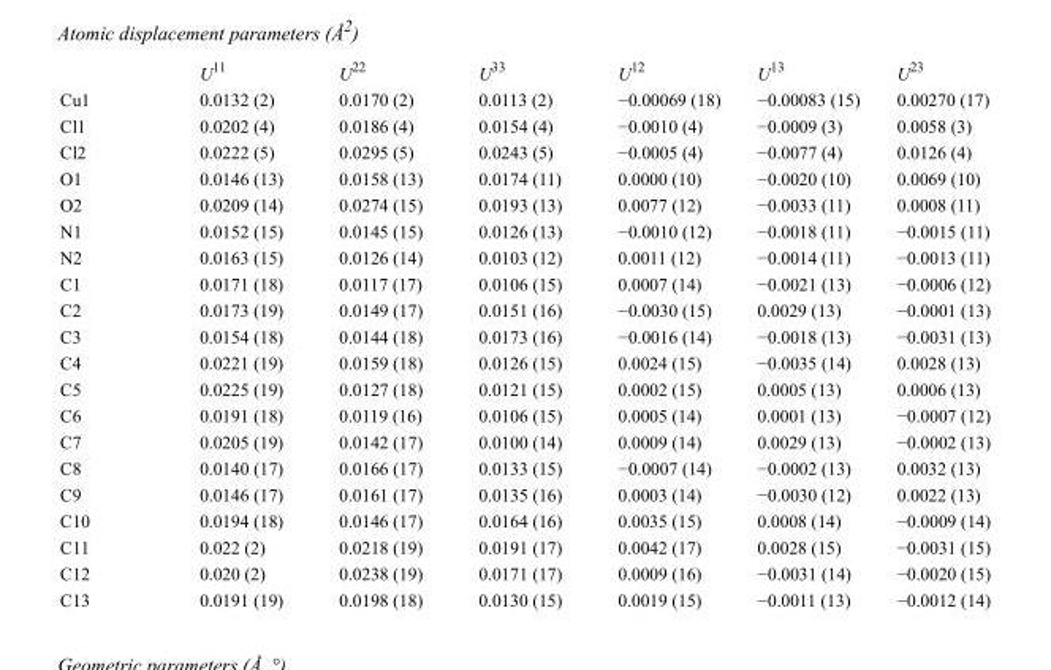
<table><thead><tr><td></td><td>U<sup>11</sup></td><td>U<sup>22</sup></td><td>U<sup>33</sup></td><td>U<sup>12</sup></td><td>U<sup>13</sup></td><td>U<sup>23</sup></td></tr></thead><tbody><tr><td>Cu1</td><td>0.0132 (2)</td><td>0.0170 (2)</td><td>0.0113 (2)</td><td>−0.00069 (18)</td><td>−0.00083 (15)</td><td>0.00270 (17)</td></tr><tr><td>Cl1</td><td>0.0202 (4)</td><td>0.0186 (4)</td><td>0.0154 (4)</td><td>−0.0010 (4)</td><td>−0.0009 (3)</td><td>0.0058 (3)</td></tr><tr><td>Cl2</td><td>0.0222 (5)</td><td>0.0295 (5)</td><td>0.0243 (5)</td><td>−0.0005 (4)</td><td>−0.0077 (4)</td><td>0.0126 (4)</td></tr><tr><td>O1</td><td>0.0146 (13)</td><td>0.0158 (13)</td><td>0.0174 (11)</td><td>0.0000 (10)</td><td>−0.0020 (10)</td><td>0.0069 (10)</td></tr><tr><td>O2</td><td>0.0209 (14)</td><td>0.0274 (15)</td><td>0.0193 (13)</td><td>0.0077 (12)</td><td>−0.0033 (11)</td><td>0.0008 (11)</td></tr><tr><td>N1</td><td>0.0152 (15)</td><td>0.0145 (15)</td><td>0.0126 (13)</td><td>−0.0010 (12)</td><td>−0.0018 (11)</td><td>−0.0015 (11)</td></tr><tr><td>N2</td><td>0.0163 (15)</td><td>0.0126 (14)</td><td>0.0103 (12)</td><td>0.0011 (12)</td><td>−0.0014 (11)</td><td>−0.0013 (11)</td></tr><tr><td>C1</td><td>0.0171 (18)</td><td>0.0117 (17)</td><td>0.0106 (15)</td><td>0.0007 (14)</td><td>−0.0021 (13)</td><td>−0.0006 (12)</td></tr><tr><td>C2</td><td>0.0173 (19)</td><td>0.0149 (17)</td><td>0.0151 (16)</td><td>−0.0030 (15)</td><td>0.0029 (13)</td><td>−0.0001 (13)</td></tr><tr><td>C3</td><td>0.0154 (18)</td><td>0.0144 (18)</td><td>0.0173 (16)</td><td>−0.0016 (14)</td><td>−0.0018 (13)</td><td>−0.0031 (13)</td></tr><tr><td>C4</td><td>0.0221 (19)</td><td>0.0159 (18)</td><td>0.0126 (15)</td><td>0.0024 (15)</td><td>−0.0035 (14)</td><td>0.0028 (13)</td></tr><tr><td>C5</td><td>0.0225 (19)</td><td>0.0127 (18)</td><td>0.0121 (15)</td><td>0.0002 (15)</td><td>0.0005 (13)</td><td>0.0006 (13)</td></tr><tr><td>C6</td><td>0.0191 (18)</td><td>0.0119 (16)</td><td>0.0106 (15)</td><td>0.0005 (14)</td><td>0.0001 (13)</td><td>−0.0007 (12)</td></tr><tr><td>C7</td><td>0.0205 (19)</td><td>0.0142 (17)</td><td>0.0100 (14)</td><td>0.0009 (14)</td><td>0.0029 (13)</td><td>−0.0002 (13)</td></tr><tr><td>C8</td><td>0.0140 (17)</td><td>0.0166 (17)</td><td>0.0133 (15)</td><td>−0.0007 (14)</td><td>−0.0002 (13)</td><td>0.0032 (13)</td></tr><tr><td>C9</td><td>0.0146 (17)</td><td>0.0161 (17)</td><td>0.0135 (16)</td><td>0.0003 (14)</td><td>−0.0030 (12)</td><td>0.0022 (13)</td></tr><tr><td>C10</td><td>0.0194 (18)</td><td>0.0146 (17)</td><td>0.0164 (16)</td><td>0.0035 (15)</td><td>0.0008 (14)</td><td>−0.0009 (14)</td></tr><tr><td>C11</td><td>0.022 (2)</td><td>0.0218 (19)</td><td>0.0191 (17)</td><td>0.0042 (17)</td><td>0.0028 (15)</td><td>−0.0031 (15)</td></tr><tr><td>C12</td><td>0.020 (2)</td><td>0.0238 (19)</td><td>0.0171 (17)</td><td>0.0009 (16)</td><td>−0.0031 (14)</td><td>−0.0020 (15)</td></tr><tr><td>C13</td><td>0.0191 (19)</td><td>0.0198 (18)</td><td>0.0130 (15)</td><td>0.0019 (15)</td><td>−0.0011 (13)</td><td>−0.0012 (14)</td></tr></tbody></table>